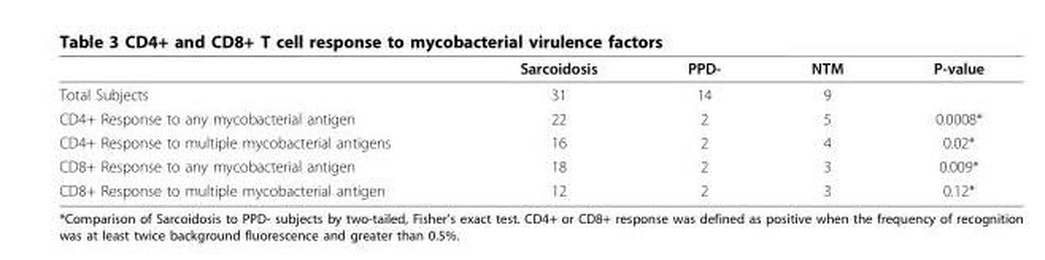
<table><thead><tr><td></td><td>Sarcoidosis</td><td>PPD-</td><td>NTM</td><td>P-value</td></tr></thead><tbody><tr><td>Total Subjects</td><td>31</td><td>14</td><td>9</td><td></td></tr><tr><td>CD4+ Response to any mycobacterial antigen</td><td>22</td><td>2</td><td>5</td><td>0.0008*</td></tr><tr><td>CD4+ Response to multiple mycobacterial antigens</td><td>16</td><td>2</td><td>4</td><td>0.02*</td></tr><tr><td>CD8+ Response to any mycobacterial antigen</td><td>18</td><td>2</td><td>3</td><td>0.009*</td></tr><tr><td>CD8+ Response to multiple mycobacterial antigen</td><td>12</td><td>2</td><td>3</td><td>0.12*</td></tr></tbody></table>